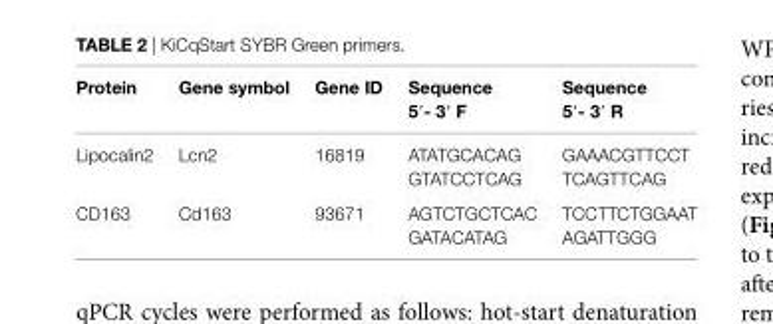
<table><thead><tr><td>Protein</td><td>gene symbol</td><td>gene iD</td><td>sequence 5′- 3′ F</td><td>sequence 5′- 3′ r</td></tr></thead><tbody><tr><td>Lipocalin2</td><td>Lcn2</td><td>16819</td><td>ATATGCACAG GTATCCTCAG</td><td>GAAACGTTCCT TCAGTTCAG</td></tr><tr><td>CD163</td><td>Cd163</td><td>93671</td><td>AGTCTGCTCAC GATACATAG</td><td>TCCTTCTGGAAT AGATTGGG</td></tr></tbody></table>